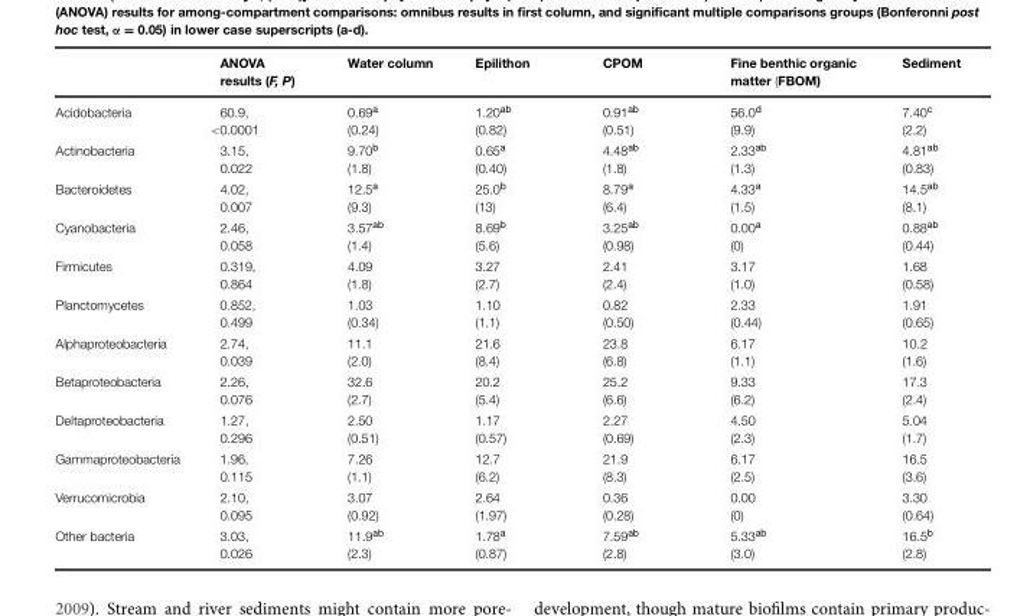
<table><thead><tr><td></td><td>ANOVA results (F, P)</td><td>Water column</td><td>Epilithon</td><td>CPOM</td><td>Fine benthic organic matter (FBOM)</td><td>Sediment</td></tr></thead><tbody><tr><td>Acidobacteria</td><td>60.9, &lt;0.0001</td><td>0.69<sup>a</sup> (0.24)</td><td>1.20<sup>ab</sup> (0.82)</td><td>0.91<sup>ab</sup> (0.51)</td><td>56.0<sup>d</sup> (9.9)</td><td>7.40<sup>c</sup> (2.2)</td></tr><tr><td>Actinobacteria</td><td>3.15, 0.022</td><td>9.70<sup>b</sup> (1.8)</td><td>0.65<sup>a</sup> (0.40)</td><td>4.48<sup>ab</sup> (1.8)</td><td>2.33<sup>ab</sup> (1.3)</td><td>4.81<sup>ab</sup> (0.83)</td></tr><tr><td>Bacteroidetes</td><td>4.02, 0.007</td><td>12.5<sup>a</sup> (9.3)</td><td>25.0<sup>b</sup> (13)</td><td>8.79<sup>a</sup> (6.4)</td><td>4.33<sup>a</sup> (1.5)</td><td>14.5<sup>ab</sup> (8.1)</td></tr><tr><td>Cyanobacteria</td><td>2.46, 0.058</td><td>3.57<sup>ab</sup> (1.4)</td><td>8.69<sup>b</sup> (5.6)</td><td>3.25<sup>ab</sup> (0.98)</td><td>0.00<sup>a</sup> (0)</td><td>0.88<sup>ab</sup> (0.44)</td></tr><tr><td>Firmicutes</td><td>0.319, 0.864</td><td>4.09 (1.8)</td><td>3.27 (2.7)</td><td>2.41 (2.4)</td><td>3.17 (1.0)</td><td>1.68 (0.58)</td></tr><tr><td>Planctomycetes</td><td>0.852, 0.499</td><td>1.03 (0.34)</td><td>1.10 (1.1)</td><td>0.82 (0.50)</td><td>2.33 (0.44)</td><td>1.91 (0.65)</td></tr><tr><td>Alphaproteobacteria</td><td>2.74, 0.039</td><td>11.1 (2.0)</td><td>21.6 (8.4)</td><td>23.8 (6.8)</td><td>6.17 (1.1)</td><td>10.2 (1.6)</td></tr><tr><td>Betaproteobacteria</td><td>2.26, 0.076</td><td>32.6 (2.7)</td><td>20.2 (5.4)</td><td>25.2 (6.6)</td><td>9.33 (6.2)</td><td>17.3 (2.4)</td></tr><tr><td>Deltaproteobacteria</td><td>1.27, 0.296</td><td>2.50 (0.51)</td><td>1.17 (0.57)</td><td>2.27 (0.69)</td><td>4.50 (2.3)</td><td>5.04 (1.7)</td></tr><tr><td>Gammaproteobacteria</td><td>1.96, 0.115</td><td>7.26 (1.1)</td><td>12.7 (6.2)</td><td>21.9 (8.3)</td><td>6.17 (2.5)</td><td>16.5 (3.6)</td></tr><tr><td>Verrucomicrobia</td><td>2.10, 0.095</td><td>3.07 (0.92)</td><td>2.64 (1.97)</td><td>0.36 (0.28)</td><td>0.00 (0)</td><td>3.30 (0.64)</td></tr><tr><td>Other bacteria</td><td>3.03, 0.026</td><td>11.9<sup>ab</sup> (2.3)</td><td>1.78<sup>a</sup> (0.87)</td><td>7.59<sup>ab</sup> (2.8)</td><td>5.33<sup>ab</sup> (3.0)</td><td>16.5<sup>b</sup> (2.8)</td></tr></tbody></table>